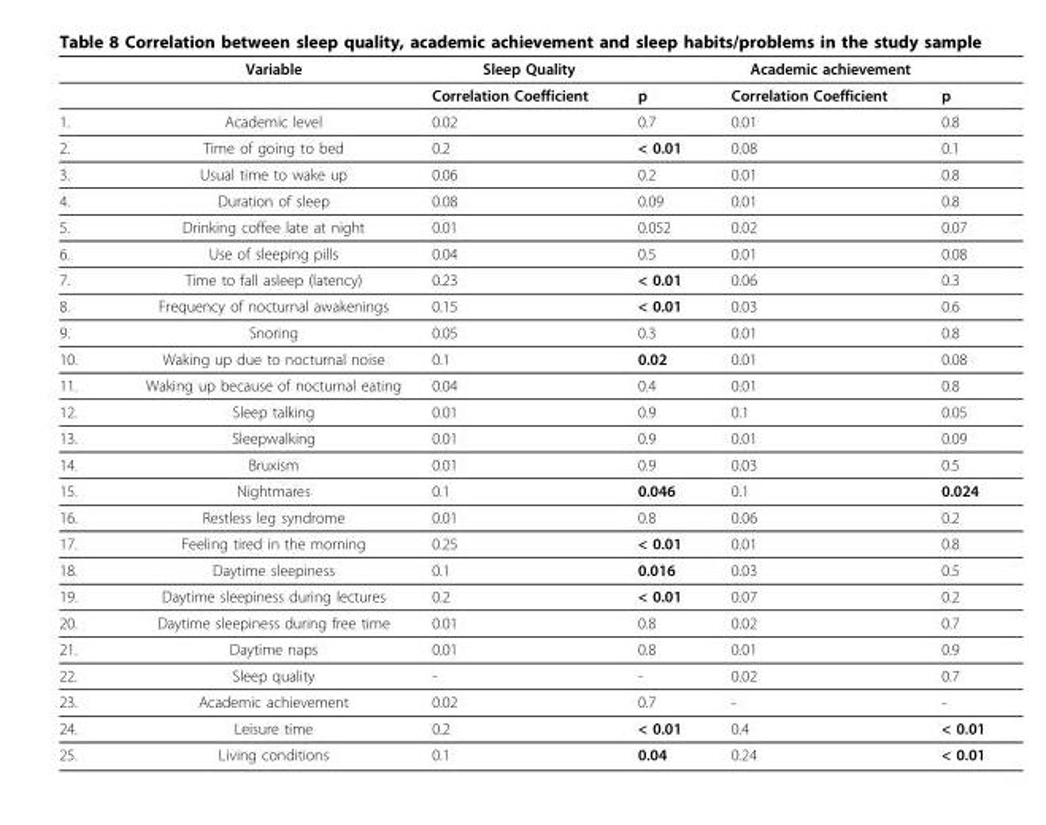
<table><thead><tr><td></td><td>Variable</td><td>Sleep Quality</td><td></td><td>Academic achievement</td><td></td></tr></thead><tbody><tr><td></td><td></td><td>Correlation Coefficient</td><td>p</td><td>Correlation Coefficient</td><td>p</td></tr><tr><td>1.</td><td>Academic level</td><td>0.02</td><td>0.7</td><td>0.01</td><td>0.8</td></tr><tr><td>2.</td><td>Time of going to bed</td><td>0.2</td><td>&lt; 0.01</td><td>0.08</td><td>0.1</td></tr><tr><td>3.</td><td>Usual time to wake up</td><td>0.06</td><td>0.2</td><td>0.01</td><td>0.8</td></tr><tr><td>4.</td><td>Duration of sleep</td><td>0.08</td><td>0.09</td><td>0.01</td><td>0.8</td></tr><tr><td>5.</td><td>Drinking coffee late at night</td><td>0.01</td><td>0.052</td><td>0.02</td><td>0.07</td></tr><tr><td>6.</td><td>Use of sleeping pills</td><td>0.04</td><td>0.5</td><td>0.01</td><td>0.08</td></tr><tr><td>7.</td><td>Time to fall asleep (latency)</td><td>0.23</td><td>&lt; 0.01</td><td>0.06</td><td>0.3</td></tr><tr><td>8.</td><td>Frequency of nocturnal awakenings</td><td>0.15</td><td>&lt; 0.01</td><td>0.03</td><td>0.6</td></tr><tr><td>9.</td><td>Snoring</td><td>0.05</td><td>0.3</td><td>0.01</td><td>0.8</td></tr><tr><td>10.</td><td>Waking up due to nocturnal noise</td><td>0.1</td><td>0.02</td><td>0.01</td><td>0.08</td></tr><tr><td>11.</td><td>Waking up because of nocturnal eating</td><td>0.04</td><td>0.4</td><td>0.01</td><td>0.8</td></tr><tr><td>12.</td><td>Sleep talking</td><td>0.01</td><td>0.9</td><td>0.1</td><td>0.05</td></tr><tr><td>13.</td><td>Sleepwalking</td><td>0.01</td><td>0.9</td><td>0.01</td><td>0.09</td></tr><tr><td>14.</td><td>Bruxism</td><td>0.01</td><td>0.9</td><td>0.03</td><td>0.5</td></tr><tr><td>15.</td><td>Nightmares</td><td>0.1</td><td>0.046</td><td>0.1</td><td>0.024</td></tr><tr><td>16.</td><td>Restless leg syndrome</td><td>0.01</td><td>0.8</td><td>0.06</td><td>0.2</td></tr><tr><td>17.</td><td>Feeling tired in the morning</td><td>0.25</td><td>&lt; 0.01</td><td>0.01</td><td>0.8</td></tr><tr><td>18.</td><td>Daytime sleepiness</td><td>0.1</td><td>0.016</td><td>0.03</td><td>0.5</td></tr><tr><td>19.</td><td>Daytime sleepiness during lectures</td><td>0.2</td><td>&lt; 0.01</td><td>0.07</td><td>0.2</td></tr><tr><td>20.</td><td>Daytime sleepiness during free time</td><td>0.01</td><td>0.8</td><td>0.02</td><td>0.7</td></tr><tr><td>21.</td><td>Daytime naps</td><td>0.01</td><td>0.8</td><td>0.01</td><td>0.9</td></tr><tr><td>22.</td><td>Sleep quality</td><td>-</td><td>-</td><td>0.02</td><td>0.7</td></tr><tr><td>23.</td><td>Academic achievement</td><td>0.02</td><td>0.7</td><td>-</td><td>-</td></tr><tr><td>24.</td><td>Leisure time</td><td>0.2</td><td>&lt; 0.01</td><td>0.4</td><td>&lt; 0.01</td></tr><tr><td>25.</td><td>Living conditions</td><td>0.1</td><td>0.04</td><td>0.24</td><td>&lt; 0.01</td></tr></tbody></table>